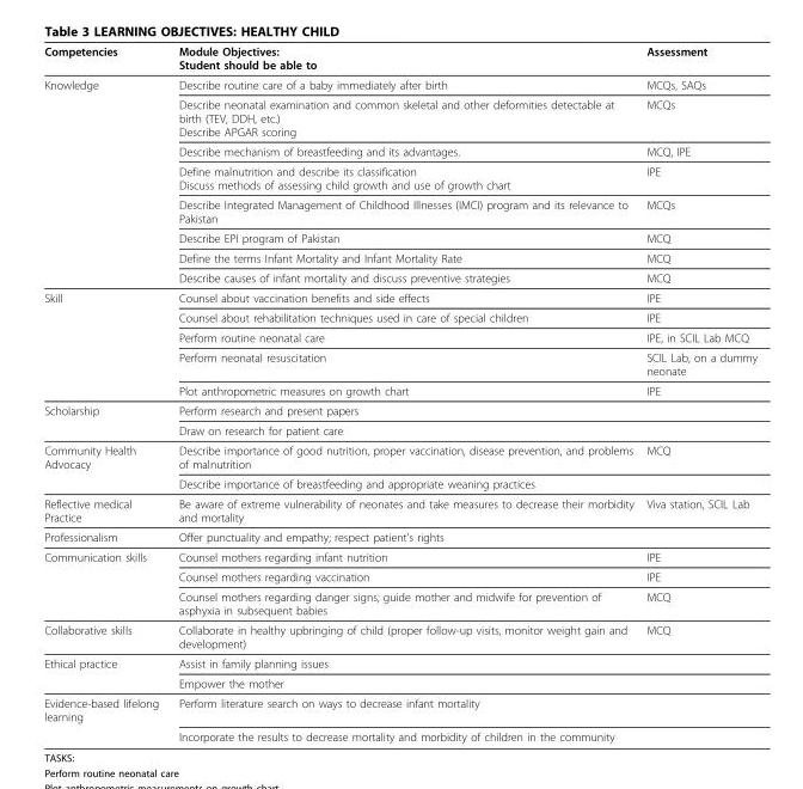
<table><thead><tr><td>Competencies</td><td>Module Objectives: Student should be able to</td><td>Assessment</td></tr></thead><tbody><tr><td rowspan="8">Knowledge</td><td>Describe routine care of a baby immediately after birth</td><td>MCQs, SAQs</td></tr><tr><td>Describe neonatal examination and common skeletal and other deformities detectable at birth (TEV, DDH, etc.) Describe APGAR scoring</td><td>MCQs</td></tr><tr><td>Describe mechanism of breastfeeding and its advantages.</td><td>MCQ, IPE</td></tr><tr><td>Define malnutrition and describe its classification Discuss methods of assessing child growth and use of growth chart</td><td>IPE</td></tr><tr><td>Describe Integrated Management of Childhood Illnesses (IMCI) program and its relevance to Pakistan</td><td>MCQs</td></tr><tr><td>Describe EPI program of Pakistan</td><td>MCQ</td></tr><tr><td>Define the terms Infant Mortality and Infant Mortality Rate</td><td>MCQ</td></tr><tr><td>Describe causes of infant mortality and discuss preventive strategies</td><td>MCQ</td></tr><tr><td rowspan="5">Skill</td><td>Counsel about vaccination benefits and side effects</td><td>IPE</td></tr><tr><td>Counsel about rehabilitation techniques used in care of special children</td><td>IPE</td></tr><tr><td>Perform routine neonatal care</td><td>IPE, in SCIL Lab MCQ</td></tr><tr><td>Perform neonatal resuscitation</td><td>SCIL Lab, on a dummy neonate</td></tr><tr><td>Plot anthropometric measures on growth chart</td><td>IPE</td></tr><tr><td rowspan="2">Scholarship</td><td>Perform research and present papers</td><td></td></tr><tr><td>Draw on research for patient care</td><td></td></tr><tr><td rowspan="2">Community Health Advocacy</td><td>Describe importance of good nutrition, proper vaccination, disease prevention, and problems of malnutrition</td><td>MCQ</td></tr><tr><td>Describe importance of breastfeeding and appropriate weaning practices</td><td></td></tr><tr><td>Reflective medical Practice</td><td>Be aware of extreme vulnerability of neonates and take measures to decrease their morbidity and mortality</td><td>Viva station, SCIL Lab</td></tr><tr><td>Professionalism</td><td>Offer punctuality and empathy; respect patient’s rights</td><td></td></tr><tr><td rowspan="3">Communication skills</td><td>Counsel mothers regarding infant nutrition</td><td>IPE</td></tr><tr><td>Counsel mothers regarding vaccination</td><td>IPE</td></tr><tr><td>Counsel mothers regarding danger signs; guide mother and midwife for prevention of asphyxia in subsequent babies</td><td>MCQ</td></tr><tr><td>Collaborative skills</td><td>Collaborate in healthy upbringing of child (proper follow-up visits, monitor weight gain and development)</td><td>MCQ</td></tr><tr><td rowspan="2">Ethical practice</td><td>Assist in family planning issues</td><td></td></tr><tr><td>Empower the mother</td><td></td></tr><tr><td rowspan="2">Evidence-based lifelong learning</td><td>Perform literature search on ways to decrease infant mortality</td><td></td></tr><tr><td>Incorporate the results to decrease mortality and morbidity of children in the community</td><td></td></tr></tbody></table>